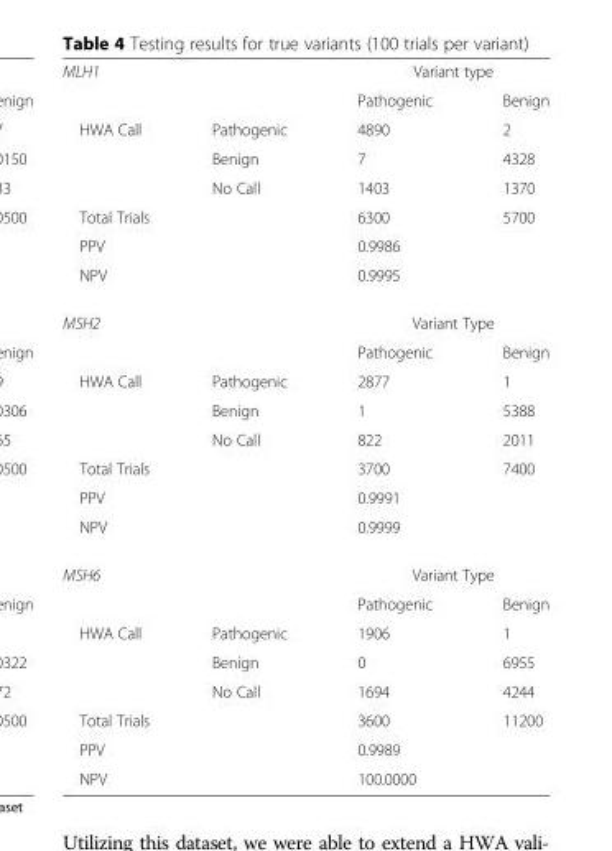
<table><tbody><tr><td rowspan="2" colspan="2">MLH1</td><td colspan="2">Variant type</td></tr><tr><td>Pathogenic</td><td>Benign</td></tr><tr><td rowspan="3">HWA Call</td><td>Pathogenic</td><td>4890</td><td>2</td></tr><tr><td>Benign</td><td>7</td><td>4328</td></tr><tr><td>No Call</td><td>1403</td><td>1370</td></tr><tr><td colspan="2">Total Trials</td><td>6300</td><td>5700</td></tr><tr><td colspan="2">PPV</td><td colspan="2">0.9986</td></tr><tr><td colspan="2">NPV</td><td colspan="2">0.9995</td></tr><tr><td rowspan="2" colspan="2">MSH2</td><td colspan="2">Variant Type</td></tr><tr><td>Pathogenic</td><td>Benign</td></tr><tr><td rowspan="3">HWA Call</td><td>Pathogenic</td><td>2877</td><td>1</td></tr><tr><td>Benign</td><td>1</td><td>5388</td></tr><tr><td>No Call</td><td>822</td><td>2011</td></tr><tr><td colspan="2">Total Trials</td><td>3700</td><td>7400</td></tr><tr><td colspan="2">PPV</td><td colspan="2">0.9991</td></tr><tr><td colspan="2">NPV</td><td colspan="2">0.9999</td></tr><tr><td rowspan="2" colspan="2">MSH6</td><td colspan="2">Variant Type</td></tr><tr><td>Pathogenic</td><td>Benign</td></tr><tr><td rowspan="3">HWA Call</td><td>Pathogenic</td><td>1906</td><td>1</td></tr><tr><td>Benign</td><td>0</td><td>6955</td></tr><tr><td>No Call</td><td>1694</td><td>4244</td></tr><tr><td colspan="2">Total Trials</td><td>3600</td><td>11200</td></tr><tr><td colspan="2">PPV</td><td colspan="2">0.9989</td></tr><tr><td colspan="2">NPV</td><td colspan="2">100.0000</td></tr></tbody></table>